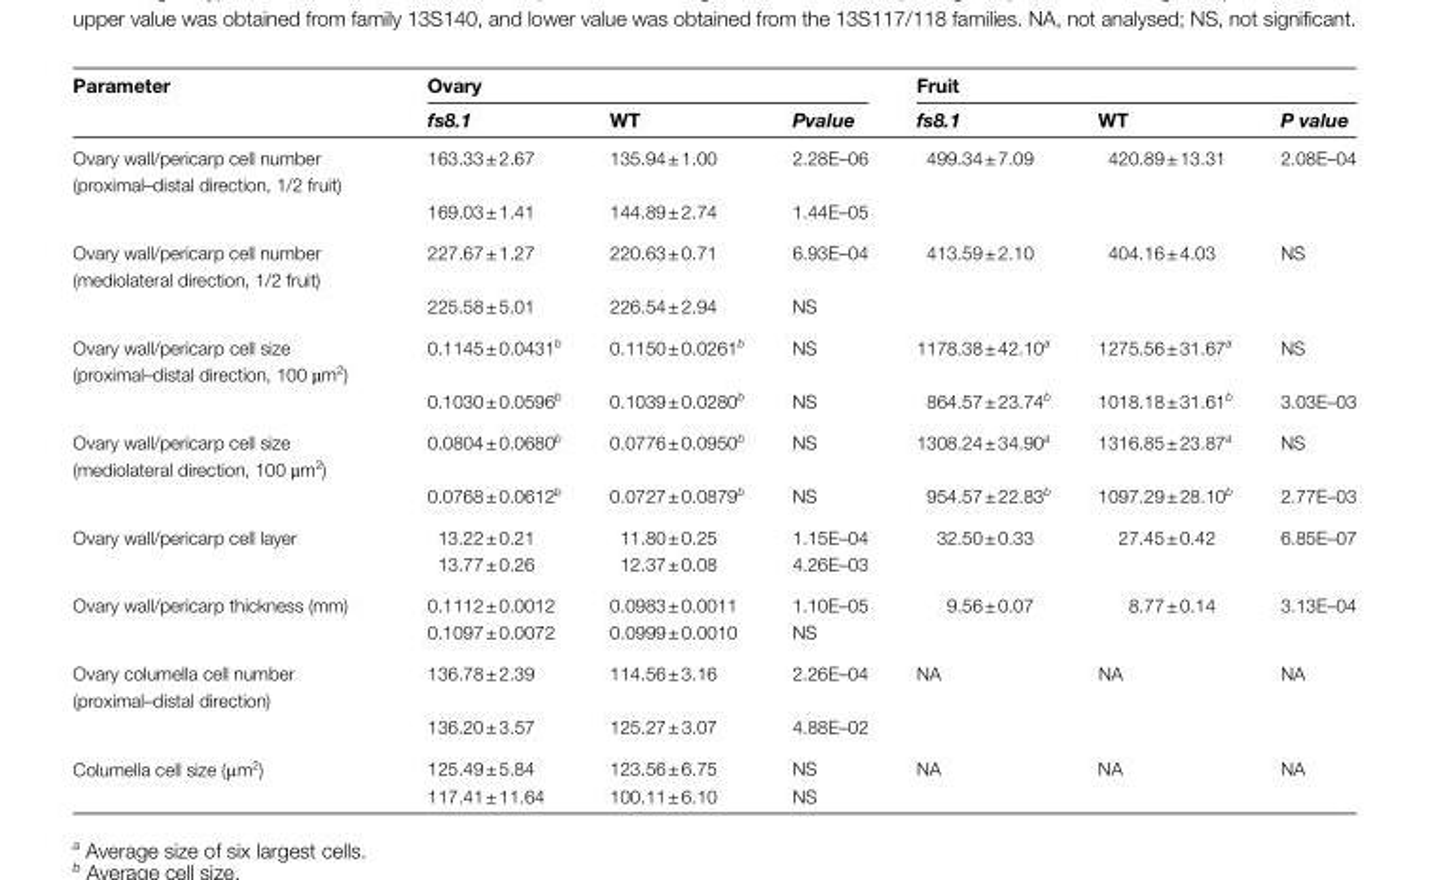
<table><thead><tr><td rowspan="2">Parameter</td><td colspan="3">Ovary</td><td colspan="3">Fruit</td></tr><tr><td>fs8.1</td><td>WT</td><td>Pvalue</td><td>fs8.1</td><td>WT</td><td>P value</td></tr></thead><tbody><tr><td rowspan="2">Ovary wall/pericarp cell number (proximal–distal direction, 1/2 fruit)</td><td>163.33 ± 2.67</td><td>135.94 ± 1.00</td><td>2.28E–06</td><td>499.34 ± 7.09</td><td>420.89 ± 13.31</td><td>2.08E–04</td></tr><tr><td>169.03 ± 1.41</td><td>144.89 ± 2.74</td><td>1.44E–05</td><td></td><td></td><td></td></tr><tr><td rowspan="2">Ovary wall/pericarp cell number (mediolateral direction, 1/2 fruit)</td><td>227.67 ± 1.27</td><td>220.63 ± 0.71</td><td>6.93E–04</td><td>413.59 ± 2.10</td><td>404.16 ± 4.03</td><td>NS</td></tr><tr><td>225.58 ± 5.01</td><td>226.54 ± 2.94</td><td>NS</td><td></td><td></td><td></td></tr><tr><td rowspan="2">Ovary wall/pericarp cell size (proximal–distal direction, 100 µm<sup>2</sup>)</td><td>0.1145 ± 0.0431<sup>b</sup></td><td>0.1150 ± 0.0261<sup>b</sup></td><td>NS</td><td>1178.38 ± 42.10<sup>a</sup></td><td>1275.56 ± 31.67<sup>a</sup></td><td>NS</td></tr><tr><td>0.1030 ± 0.0596<sup>b</sup></td><td>0.1039 ± 0.0280<sup>b</sup></td><td>NS</td><td>864.57 ± 23.74<sup>b</sup></td><td>1018.18 ± 31.61<sup>b</sup></td><td>3.03E–03</td></tr><tr><td rowspan="2">Ovary wall/pericarp cell size (mediolateral direction, 100 µm<sup>2</sup>)</td><td>0.0804 ± 0.0680<sup>b</sup></td><td>0.0776 ± 0.0950<sup>b</sup></td><td>NS</td><td>1308.24 ± 34.90<sup>a</sup></td><td>1316.85 ± 23.87<sup>a</sup></td><td>NS</td></tr><tr><td>0.0768 ± 0.0612<sup>b</sup></td><td>0.0727 ± 0.0879<sup>b</sup></td><td>NS</td><td>954.57 ± 22.83<sup>b</sup></td><td>1097.29 ± 28.10<sup>b</sup></td><td>2.77E–03</td></tr><tr><td rowspan="2">Ovary wall/pericarp cell layer</td><td>13.22 ± 0.21</td><td>11.80 ± 0.25</td><td>1.15E–04</td><td>32.50 ± 0.33</td><td>27.45 ± 0.42</td><td>6.85E–07</td></tr><tr><td>13.77 ± 0.26</td><td>12.37 ± 0.08</td><td>4.26E–03</td><td></td><td></td><td></td></tr><tr><td rowspan="2">Ovary wall/pericarp thickness (mm)</td><td>0.1112 ± 0.0012</td><td>0.0983 ± 0.0011</td><td>1.10E–05</td><td>9.56 ± 0.07</td><td>8.77 ± 0.14</td><td>3.13E–04</td></tr><tr><td>0.1097 ± 0.0072</td><td>0.0999 ± 0.0010</td><td>NS</td><td></td><td></td><td></td></tr><tr><td rowspan="2">Ovary columella cell number (proximal–distal direction)</td><td>136.78 ± 2.39</td><td>114.56 ± 3.16</td><td>2.26E–04</td><td>NA</td><td>NA</td><td>NA</td></tr><tr><td>136.20 ± 3.57</td><td>125.27 ± 3.07</td><td>4.88E–02</td><td></td><td></td><td></td></tr><tr><td rowspan="2">Columella cell size (μm<sup>2</sup>)</td><td>125.49 ± 5.84</td><td>123.56 ± 6.75</td><td>NS</td><td>NA</td><td>NA</td><td>NA</td></tr><tr><td>117.41 ± 11.64</td><td>100.11 ± 6.10</td><td>NS</td><td></td><td></td><td></td></tr></tbody></table>